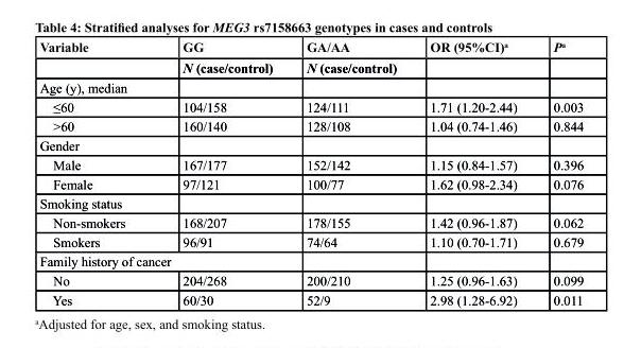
<table><thead><tr><td rowspan="2">Variable</td><td rowspan="2">GG N (case/control)</td><td rowspan="2">GA/AA N (case/control)</td><td rowspan="2">or (95%cI)<sup>a</sup></td><td rowspan="2">P<sup>a</sup></td></tr><tr></tr></thead><tbody><tr><td colspan="5">Age (y), median</td></tr><tr><td>≤60</td><td>104/158</td><td>124/111</td><td>1.71 (1.20-2.44)</td><td>0.003</td></tr><tr><td>&gt;60</td><td>160/140</td><td>128/108</td><td>1.04 (0.74-1.46)</td><td>0.844</td></tr><tr><td colspan="5">Gender</td></tr><tr><td>Male</td><td>167/177</td><td>152/142</td><td>1.15 (0.84-1.57)</td><td>0.396</td></tr><tr><td>Female</td><td>97/121</td><td>100/77</td><td>1.62 (0.98-2.34)</td><td>0.076</td></tr><tr><td colspan="5">Smoking status</td></tr><tr><td>Non-smokers</td><td>168/207</td><td>178/155</td><td>1.42 (0.96-1.87)</td><td>0.062</td></tr><tr><td>Smokers</td><td>96/91</td><td>74/64</td><td>1.10 (0.70-1.71)</td><td>0.679</td></tr><tr><td colspan="5">Family history of cancer</td></tr><tr><td>No</td><td>204/268</td><td>200/210</td><td>1.25 (0.96-1.63)</td><td>0.099</td></tr><tr><td>Yes</td><td>60/30</td><td>52/9</td><td>2.98 (1.28-6.92)</td><td>0.011</td></tr></tbody></table>